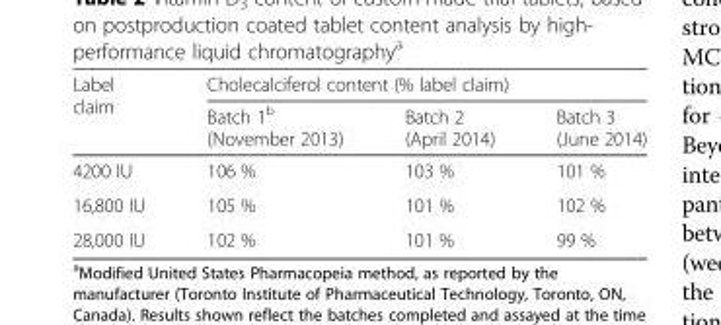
<table><thead><tr><td rowspan="2">Label claim</td><td colspan="3">Cholecalciferol content (% label claim)</td></tr><tr><td>Batch 1<sup>b</sup> (November 2013)</td><td>Batch 2 (April 2014)</td><td>Batch 3 (June 2014)</td></tr></thead><tbody><tr><td>4200 IU</td><td>106 %</td><td>103 %</td><td>101 %</td></tr><tr><td>16,800 IU</td><td>105 %</td><td>101 %</td><td>102 %</td></tr><tr><td>28,000 IU</td><td>102 %</td><td>101 %</td><td>99 %</td></tr></tbody></table>